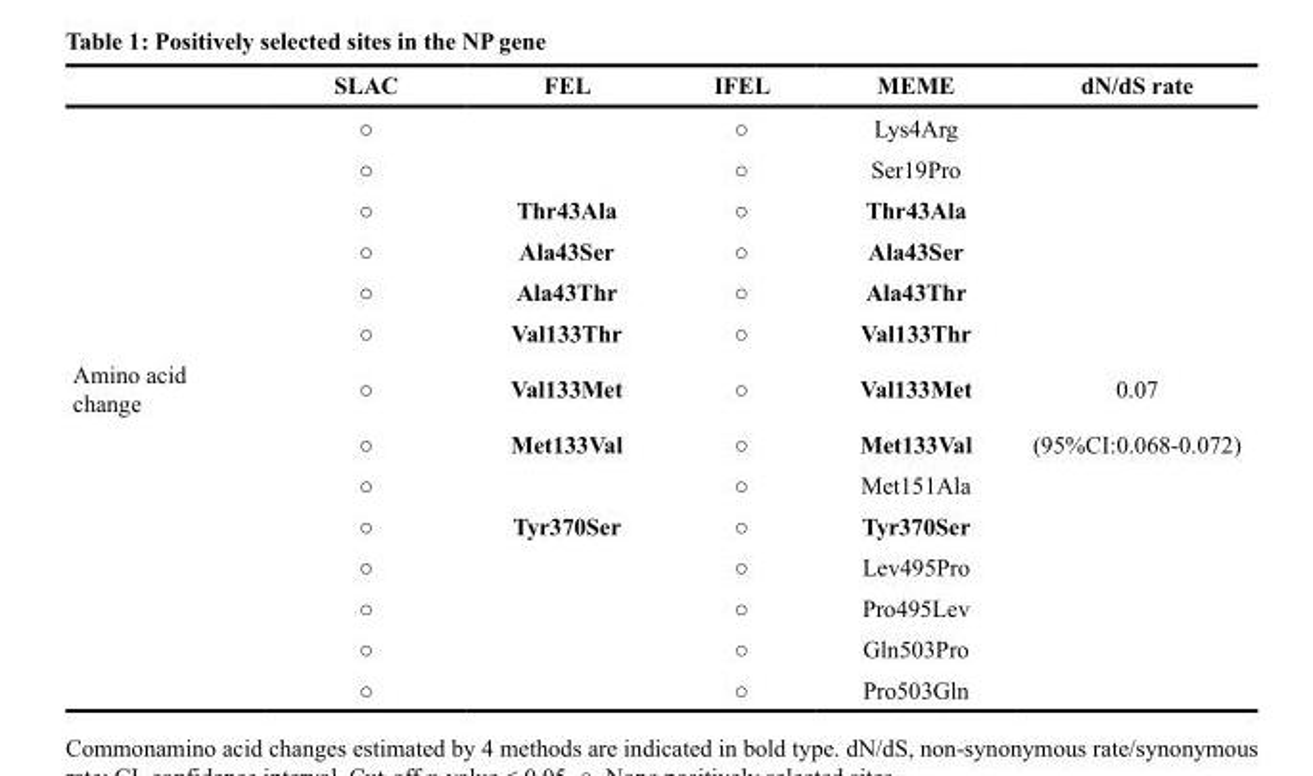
<table><thead><tr><td></td><td>SLAC</td><td>FEL</td><td>IFEL</td><td>MEME</td><td>dN/dS rate</td></tr></thead><tbody><tr><td></td><td>○</td><td></td><td>○</td><td>Lys4Arg</td><td></td></tr><tr><td></td><td>○</td><td></td><td>○</td><td>Ser19Pro</td><td></td></tr><tr><td></td><td>○</td><td>Thr43Ala</td><td>○</td><td>Thr43Ala</td><td></td></tr><tr><td></td><td>○</td><td>Ala43Ser</td><td>○</td><td>Ala43Ser</td><td></td></tr><tr><td></td><td>○</td><td>Ala43Thr</td><td>○</td><td>Ala43Thr</td><td></td></tr><tr><td></td><td>○</td><td>Val133Thr</td><td>○</td><td>Val133Thr</td><td></td></tr><tr><td rowspan="8">Amino acid change</td><td>○</td><td>Val133Met</td><td>○</td><td>Val133Met</td><td>0.07</td></tr><tr><td>○</td><td>Met133Val</td><td>○</td><td>Met133Val</td><td>(95%CI:0.068-0.072)</td></tr><tr><td>○</td><td></td><td>○</td><td>Met151Ala</td><td></td></tr><tr><td>○</td><td>Tyr370Ser</td><td>○</td><td>Tyr370Ser</td><td></td></tr><tr><td>○</td><td></td><td>○</td><td>Lev495Pro</td><td></td></tr><tr><td>○</td><td></td><td>○</td><td>Pro495Lev</td><td></td></tr><tr><td>○</td><td></td><td>○</td><td>Gln503Pro</td><td></td></tr><tr><td>○</td><td></td><td>○</td><td>Pro503Gln</td><td></td></tr></tbody></table>